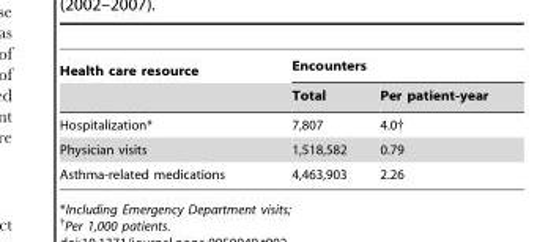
<table><thead><tr><td rowspan="2">Health care resource</td><td colspan="2">Encounters</td></tr><tr><td>Total</td><td>Per patient-year</td></tr></thead><tbody><tr><td>Hospitalization*</td><td>7,807</td><td>4.0†</td></tr><tr><td>Physician visits</td><td>1,518,582</td><td>0.79</td></tr><tr><td>Asthma-related medications</td><td>4,463,903</td><td>2.26</td></tr></tbody></table>